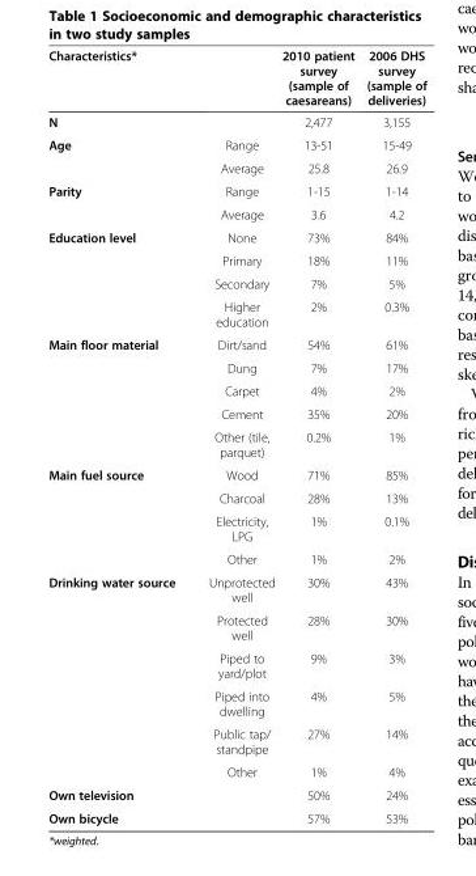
<table><thead><tr><td>Characteristics*</td><td></td><td>2010 patient survey (sample of caesareans)</td><td>2006 DHS survey (sample of deliveries)</td></tr></thead><tbody><tr><td>N</td><td></td><td>2,477</td><td>3,155</td></tr><tr><td rowspan="2">Age</td><td>Range</td><td>13-51</td><td>15-49</td></tr><tr><td>Average</td><td>25.8</td><td>26.9</td></tr><tr><td rowspan="2">Parity</td><td>Range</td><td>1-15</td><td>1-14</td></tr><tr><td>Average</td><td>3.6</td><td>4.2</td></tr><tr><td rowspan="4">Education level</td><td>None</td><td>73%</td><td>84%</td></tr><tr><td>Primary</td><td>18%</td><td>11%</td></tr><tr><td>Secondary</td><td>7%</td><td>5%</td></tr><tr><td>Higher education</td><td>2%</td><td>0.3%</td></tr><tr><td rowspan="5">Main floor material</td><td>Dirt/sand</td><td>54%</td><td>61%</td></tr><tr><td>Dung</td><td>7%</td><td>17%</td></tr><tr><td>Carpet</td><td>4%</td><td>2%</td></tr><tr><td>Cement</td><td>35%</td><td>20%</td></tr><tr><td>Other (tile, parquet)</td><td>0.2%</td><td>1%</td></tr><tr><td rowspan="4">Main fuel source</td><td>Wood</td><td>71%</td><td>85%</td></tr><tr><td>Charcoal</td><td>28%</td><td>13%</td></tr><tr><td>Electricity, LPG</td><td>1%</td><td>0.1%</td></tr><tr><td>Other</td><td>1%</td><td>2%</td></tr><tr><td rowspan="6">Drinking water source</td><td>Unprotected well</td><td>30%</td><td>43%</td></tr><tr><td>Protected well</td><td>28%</td><td>30%</td></tr><tr><td>Piped to yard/plot</td><td>9%</td><td>3%</td></tr><tr><td>Piped into dwelling</td><td>4%</td><td>5%</td></tr><tr><td>Public tap/ standpipe</td><td>27%</td><td>14%</td></tr><tr><td>Other</td><td>1%</td><td>4%</td></tr><tr><td>Own television</td><td></td><td>50%</td><td>24%</td></tr><tr><td>Own bicycle</td><td></td><td>57%</td><td>53%</td></tr></tbody></table>